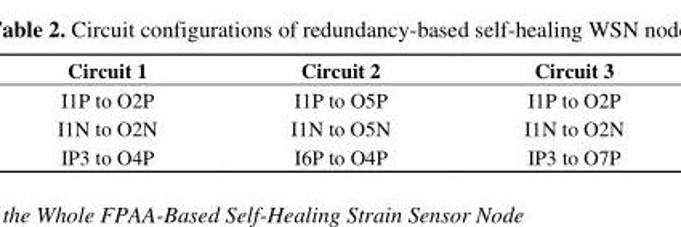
<table><thead><tr><td>Circuit 1</td><td>Circuit 2</td><td>Circuit 3</td></tr></thead><tbody><tr><td>I1P to O2P</td><td>I1P to O5P</td><td>I1P to O2P</td></tr><tr><td>I1N to O2N</td><td>I1N to O5N</td><td>I1N to O2N</td></tr><tr><td>IP3 to O4P</td><td>I6P to O4P</td><td>IP3 to O7P</td></tr></tbody></table>